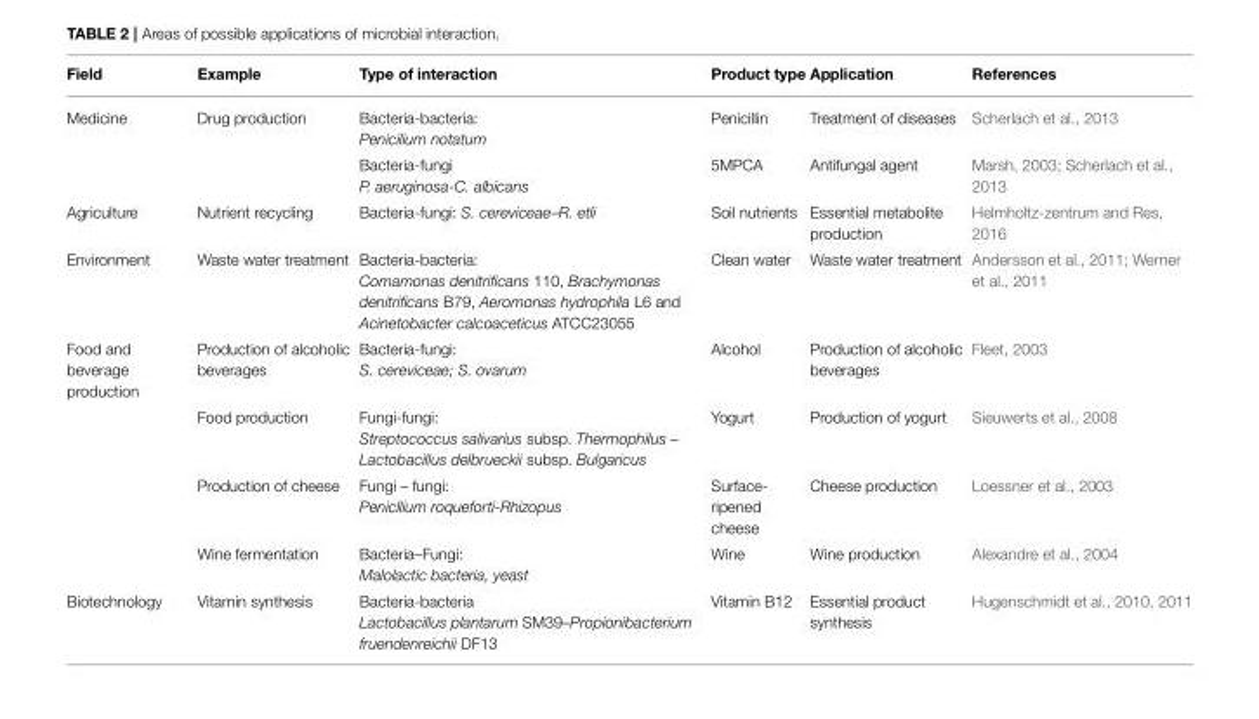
<table><thead><tr><td>Field</td><td>Example</td><td>Type of interaction</td><td>Product type</td><td>Application</td><td>References</td></tr></thead><tbody><tr><td rowspan="2">Medicine</td><td>Drug production</td><td>Bacteria-bacteria: Penicilium notatum</td><td>Penicillin</td><td>Treatment of diseases</td><td>Scherlach et al., 2013</td></tr><tr><td></td><td>Bacteria-fungi P. aeruginosa-C. albicans</td><td>5MPCA</td><td>Antifungal agent</td><td>Marsh, 2003; Scherlach et al., 2013</td></tr><tr><td>Agriculture</td><td>Nutrient recycling</td><td>Bacteria-fungi: S. cereviceae–R. etli</td><td>Soil nutrients</td><td>Essential metabolite production</td><td>Helmholtz-zentrum and Res, 2016</td></tr><tr><td>Environment</td><td>Waste water treatment</td><td>Bacteria-bacteria: Comamonas denitrificans 110, Brachymonas denitrificans B79, Aeromonas hydrophila L6 and Acinetobacter calcoaceticus ATCC23055</td><td>Clean water</td><td>Waste water treatment</td><td>Andersson et al., 2011; Werner et al., 2011</td></tr><tr><td rowspan="4">Food and beverage production</td><td>Production of alcoholic beverages</td><td>Bacteria-fungi: S. cereviceae; S. ovarum</td><td>Alcohol</td><td>Production of alcoholic beverages</td><td>Fleet, 2003</td></tr><tr><td>Food production</td><td>Fungi-fungi: Streptococcus salivarius subsp. Thermophilus – Lactobacillus delbrueckii subsp. Bulgaricus</td><td>Yogurt</td><td>Production of yogurt</td><td>Sieuwerts et al., 2008</td></tr><tr><td>Production of cheese</td><td>Fungi – fungi: Penicllium roqueforti-Rhizopus</td><td>Surface- ripened cheese</td><td>Cheese production</td><td>Loessner et al., 2003</td></tr><tr><td>Wine fermentation</td><td>Bacteria–Fungi: Malolactic bacteria, yeast</td><td>Wine</td><td>Wine production</td><td>Alexandre et al., 2004</td></tr><tr><td>Biotechnology</td><td>Vitamin synthesis</td><td>Bacteria-bacteria Lactobacillus plantarum SM39–Propionibacterium fruendenreichii DF13</td><td>Vitamin B12</td><td>Essential product synthesis</td><td>Hugenschmidt et al., 2010, 2011</td></tr></tbody></table>